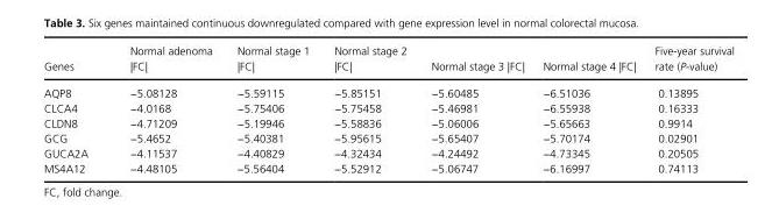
<table><thead><tr><td>Genes</td><td>Normal adenoma |FC|</td><td>Normal stage 1 |FC|</td><td>Normal stage 2 |FC|</td><td>Normal stage 3 |FC|</td><td>Normal stage 4 |FC|</td><td>Five- year survival rate (P- value)</td></tr></thead><tbody><tr><td>AQP8</td><td>−5.08128</td><td>−5.59115</td><td>−5.85151</td><td>−5.60485</td><td>−6.51036</td><td>0.13895</td></tr><tr><td>CLCA4</td><td>−4.0168</td><td>−5.75406</td><td>−5.75458</td><td>−5.46981</td><td>−6.55938</td><td>0.16333</td></tr><tr><td>CLDN8</td><td>−4.71209</td><td>−5.19946</td><td>−5.58836</td><td>−5.06006</td><td>−5.65663</td><td>0.9914</td></tr><tr><td>GCG</td><td>−5.4652</td><td>−5.40381</td><td>−5.95615</td><td>−5.65407</td><td>−5.70174</td><td>0.02901</td></tr><tr><td>GUCA2A</td><td>−4.11537</td><td>−4.40829</td><td>−4.32434</td><td>−4.24492</td><td>−4.73345</td><td>0.20505</td></tr><tr><td>MS4A12</td><td>−4.48105</td><td>−5.56404</td><td>−5.52912</td><td>−5.06747</td><td>−6.16997</td><td>0.74113</td></tr></tbody></table>